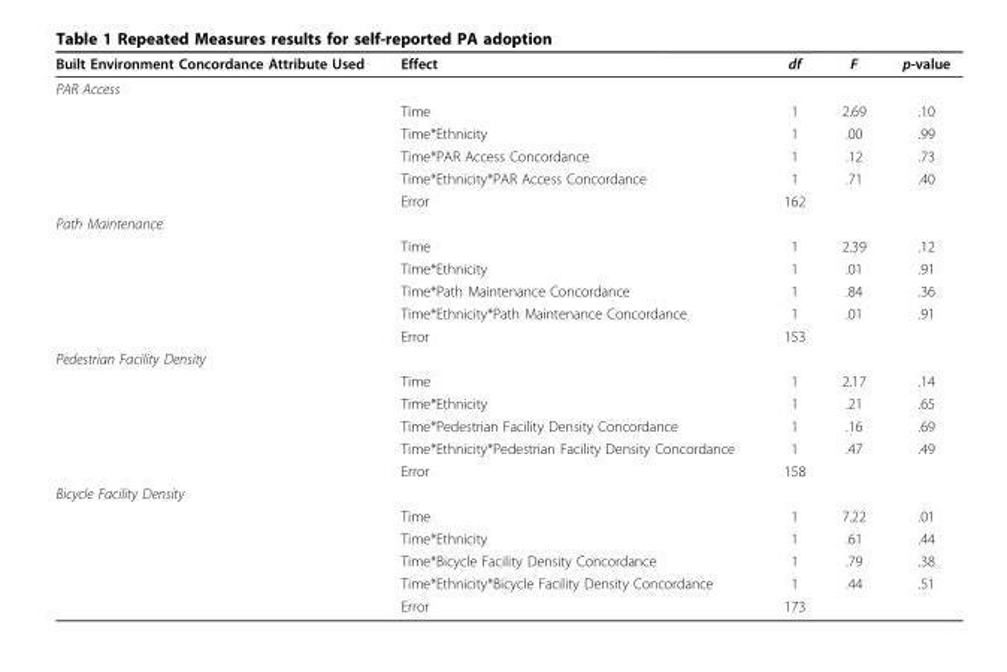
<table><thead><tr><td>Built Environment Concordance Attribute Used</td><td>Effect</td><td>df</td><td>F</td><td>p-value</td></tr></thead><tbody><tr><td colspan="5">PAR Access</td></tr><tr><td></td><td>Time</td><td>1</td><td>2.69</td><td>.10</td></tr><tr><td></td><td>Time*Ethnicity</td><td>1</td><td>.00</td><td>.99</td></tr><tr><td></td><td>Time*PAR Access Concordance</td><td>1</td><td>.12</td><td>.73</td></tr><tr><td></td><td>Time*Ethnicity*PAR Access Concordance</td><td>1</td><td>.71</td><td>.40</td></tr><tr><td></td><td>Error</td><td>162</td><td></td><td></td></tr><tr><td colspan="5">Path Maintenance</td></tr><tr><td></td><td>Time</td><td>1</td><td>2.39</td><td>.12</td></tr><tr><td></td><td>Time*Ethnicity</td><td>1</td><td>.01</td><td>.91</td></tr><tr><td></td><td>Time*Path Maintenance Concordance</td><td>1</td><td>.84</td><td>.36</td></tr><tr><td></td><td>Time*Ethnicity*Path Maintenance Concordance</td><td>1</td><td>.01</td><td>.91</td></tr><tr><td></td><td>Error</td><td>153</td><td></td><td></td></tr><tr><td colspan="5">Pedestrian Facility Density</td></tr><tr><td></td><td>Time</td><td>1</td><td>2.17</td><td>.14</td></tr><tr><td></td><td>Time*Ethnicity</td><td>1</td><td>.21</td><td>.65</td></tr><tr><td></td><td>Time*Pedestrian Facility Density Concordance</td><td>1</td><td>.16</td><td>.69</td></tr><tr><td></td><td>Time*Ethnicity*Pedestrian Facility Density Concordance</td><td>1</td><td>.47</td><td>.49</td></tr><tr><td></td><td>Error</td><td>158</td><td></td><td></td></tr><tr><td colspan="5">Bicycle Facility Density</td></tr><tr><td></td><td>Time</td><td>1</td><td>7.22</td><td>.01</td></tr><tr><td></td><td>Time*Ethnicity</td><td>1</td><td>.61</td><td>.44</td></tr><tr><td></td><td>Time*Bicycle Facility Density Concordance</td><td>1</td><td>.79</td><td>.38</td></tr><tr><td></td><td>Time*Ethnicity*Bicycle Facility Density Concordance</td><td>1</td><td>.44</td><td>.51</td></tr><tr><td></td><td>Error</td><td>173</td><td></td><td></td></tr></tbody></table>